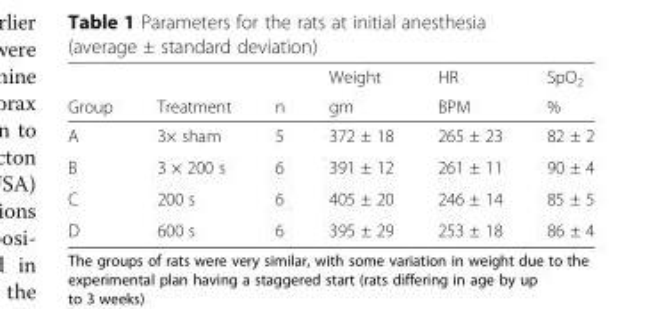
<table><thead><tr><td rowspan="2">Group</td><td rowspan="2">Treatment</td><td rowspan="2">n</td><td rowspan="2">Weight gm</td><td rowspan="2">HR BPM</td><td rowspan="2">SpO<sub>2</sub> %</td></tr><tr></tr></thead><tbody><tr><td>A</td><td>3× sham</td><td>5</td><td>372 ± 18</td><td>265 ± 23</td><td>82 ± 2</td></tr><tr><td>B</td><td>3 × 200 s</td><td>6</td><td>391 ± 12</td><td>261 ± 11</td><td>90 ± 4</td></tr><tr><td>C</td><td>200 s</td><td>6</td><td>405 ± 20</td><td>246 ± 14</td><td>85 ± 5</td></tr><tr><td>D</td><td>600 s</td><td>6</td><td>395 ± 29</td><td>253 ± 18</td><td>86 ± 4</td></tr></tbody></table>